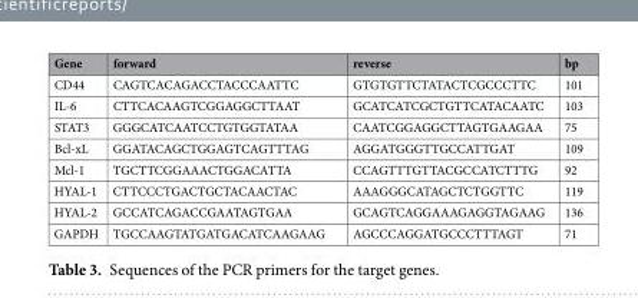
<table><thead><tr><td>Gene</td><td>forward</td><td>reverse</td><td>bp</td></tr></thead><tbody><tr><td>CD44</td><td>CAGTCACAGACCTACCCAATTC</td><td>GTGTGTTCTATACTCGCCCTTC</td><td>101</td></tr><tr><td>IL-6</td><td>CTTCACAAGTCGGAGGCTTAAT</td><td>GCATCATCGCTGTTCATACAATC</td><td>103</td></tr><tr><td>STAT3</td><td>GGGCATCAATCCTGTGGTATAA</td><td>CAATCGGAGGCTTAGTGAAGAA</td><td>75</td></tr><tr><td>Bcl-xL</td><td>GGATACAGCTGGAGTCAGTTTAG</td><td>AGGATGGGTTGCCATTGAT</td><td>109</td></tr><tr><td>Mcl-1</td><td>TGCTTCGGAAACTGGACATTA</td><td>CCAGTTTGTTACGCCATCTTTG</td><td>92</td></tr><tr><td>HYAL-1</td><td>CTTCCCTGACTGCTACAACTAC</td><td>AAAGGGCATAGCTCTGGTTC</td><td>119</td></tr><tr><td>HYAL-2</td><td>GCCATCAGACCGAATAGTGAA</td><td>GCAGTCAGGAAAGAGGTAGAAG</td><td>136</td></tr><tr><td>GAPDH</td><td>TGCCAAGTATGATGACATCAAGAAG</td><td>AGCCCAGGATGCCCTTTAGT</td><td>71</td></tr></tbody></table>